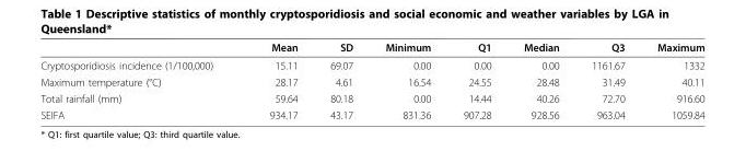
<table><thead><tr><td></td><td>Mean</td><td>SD</td><td>Minimum</td><td>Q1</td><td>Median</td><td>Q3</td><td>Maximum</td></tr></thead><tbody><tr><td>Cryptosporidiosis incidence (1/100,000)</td><td>15.11</td><td>69.07</td><td>0.00</td><td>0.00</td><td>0.00</td><td>1161.67</td><td>1332</td></tr><tr><td>Maximum temperature (°C)</td><td>28.17</td><td>4.61</td><td>16.54</td><td>24.55</td><td>28.48</td><td>31.49</td><td>40.11</td></tr><tr><td>Total rainfall (mm)</td><td>59.64</td><td>80.18</td><td>0.00</td><td>14.44</td><td>40.26</td><td>72.70</td><td>916.60</td></tr><tr><td>SEIFA</td><td>934.17</td><td>43.17</td><td>831.36</td><td>907.28</td><td>928.56</td><td>963.04</td><td>1059.84</td></tr></tbody></table>